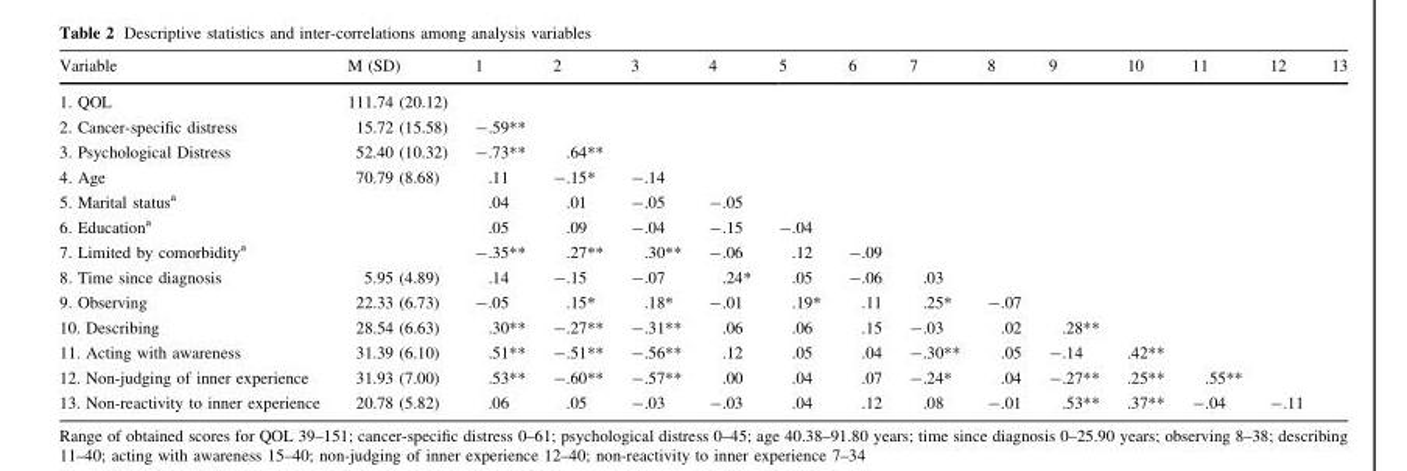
<table><thead><tr><td>Variable</td><td>M (SD)</td><td>1</td><td>2</td><td>3</td><td>4</td><td>5</td><td>6</td><td>7</td><td>8</td><td>9</td><td>10</td><td>11</td><td>12</td><td>13</td></tr></thead><tbody><tr><td>1. QOL</td><td>111.74 (20.12)</td><td></td><td></td><td></td><td></td><td></td><td></td><td></td><td></td><td></td><td></td><td></td><td></td><td></td></tr><tr><td>2. Cancer-specific distress</td><td>15.72 (15.58)</td><td>-.59**</td><td></td><td></td><td></td><td></td><td></td><td></td><td></td><td></td><td></td><td></td><td></td><td></td></tr><tr><td>3. Psychological Distress</td><td>52.40 (10.32)</td><td>-.73**</td><td>.64**</td><td></td><td></td><td></td><td></td><td></td><td></td><td></td><td></td><td></td><td></td><td></td></tr><tr><td>4. Age</td><td>70.79 (8.68)</td><td>.11</td><td>-.15*</td><td>-.14</td><td></td><td></td><td></td><td></td><td></td><td></td><td></td><td></td><td></td><td></td></tr><tr><td>5. Marital status<sup>a</sup></td><td></td><td>.04</td><td>.01</td><td>-.05</td><td>-.05</td><td></td><td></td><td></td><td></td><td></td><td></td><td></td><td></td><td></td></tr><tr><td>6. Education<sup>a</sup></td><td></td><td>.05</td><td>.09</td><td>-.04</td><td>-.15</td><td>-.04</td><td></td><td></td><td></td><td></td><td></td><td></td><td></td><td></td></tr><tr><td>7. Limited by comorbidity<sup>a</sup></td><td></td><td>-.35**</td><td>.27**</td><td>.30**</td><td>-.06</td><td>.12</td><td>-.09</td><td></td><td></td><td></td><td></td><td></td><td></td><td></td></tr><tr><td>8. Time since diagnosis</td><td>5.95 (4.89)</td><td>.14</td><td>-.15</td><td>-.07</td><td>.24*</td><td>.05</td><td>-.06</td><td>.03</td><td></td><td></td><td></td><td></td><td></td><td></td></tr><tr><td>9. Observing</td><td>22.33 (6.73)</td><td>-.05</td><td>.15*</td><td>.18*</td><td>-.01</td><td>.19*</td><td>.11</td><td>.25*</td><td>-.07</td><td></td><td></td><td></td><td></td><td></td></tr><tr><td>10. Describing</td><td>28.54 (6.63)</td><td>.30**</td><td>-.27**</td><td>-.31**</td><td>.06</td><td>.06</td><td>.15</td><td>-.03</td><td>.02</td><td>.28**</td><td></td><td></td><td></td><td></td></tr><tr><td>11. Acting with awareness</td><td>31.39 (6.10)</td><td>.51**</td><td>-.51**</td><td>-.56**</td><td>.12</td><td>.05</td><td>.04</td><td>-.30**</td><td>.05</td><td>-.14</td><td>.42**</td><td></td><td></td><td></td></tr><tr><td>12. Non-judging of inner experience</td><td>31.93 (7.00)</td><td>.53**</td><td>-.60**</td><td>-.57**</td><td>.00</td><td>.04</td><td>.07</td><td>-.24*</td><td>.04</td><td>-.27**</td><td>.25**</td><td>.55**</td><td></td><td></td></tr><tr><td>13. Non-reactivity to inner experience</td><td>20.78 (5.82)</td><td>.06</td><td>.05</td><td>-.03</td><td>-.03</td><td>.04</td><td>.12</td><td>.08</td><td>-.01</td><td>.53**</td><td>.37**</td><td>-.04</td><td>-.11</td><td></td></tr></tbody></table>